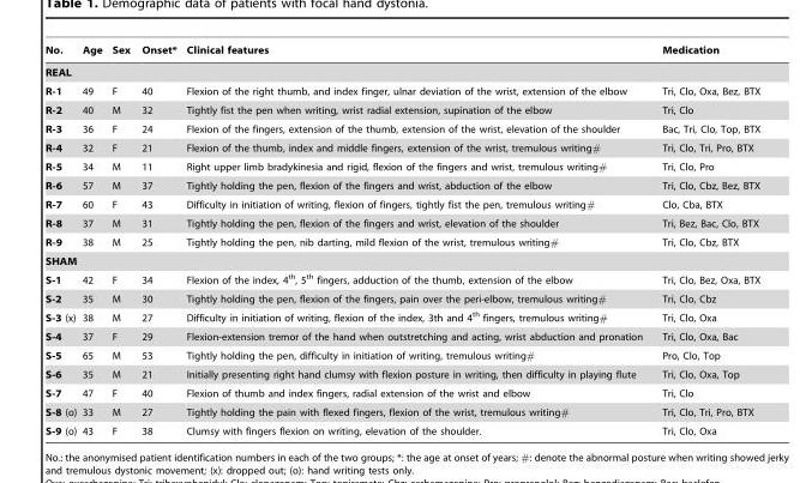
<table><thead><tr><td>No.</td><td>Age</td><td>Sex</td><td>Onset*</td><td>Clinical features</td><td>Medication</td></tr></thead><tbody><tr><td colspan="6">REAL</td></tr><tr><td>R-1</td><td>49</td><td>F</td><td>40</td><td>Flexion of the right thumb, and index finger, ulnar deviation of the wrist, extension of the elbow</td><td>Tri, Clo, Oxa, Bez, BTX</td></tr><tr><td>R-2</td><td>40</td><td>M</td><td>32</td><td>Tightly fist the pen when writing, wrist radial extension, supination of the elbow</td><td>Tri, Clo</td></tr><tr><td>R-3</td><td>36</td><td>F</td><td>24</td><td>Flexion of the fingers, extension of the thumb, extension of the wrist, elevation of the shoulder</td><td>Bac, Tri, Clo, Top, BTX</td></tr><tr><td>R-4</td><td>32</td><td>F</td><td>21</td><td>Flexion of the thumb, index and middle fingers, extension of the wrist, tremulous writing#</td><td>Tri, Clo, Tri, Pro, BTX</td></tr><tr><td>R-5</td><td>34</td><td>M</td><td>11</td><td>Right upper limb bradykinesia and rigid, flexion of the fingers and wrist, tremulous writing#</td><td>Tri, Clo, Pro</td></tr><tr><td>R-6</td><td>57</td><td>M</td><td>37</td><td>Tightly holding the pen, flexion of the fingers and wrist, abduction of the elbow</td><td>Tri, Clo, Cbz, Bez, BTX</td></tr><tr><td>R-7</td><td>60</td><td>F</td><td>43</td><td>Difficulty in initiation of writing, flexion of fingers, tightly fist the pen, tremulous writing#</td><td>Clo, Cba, BTX</td></tr><tr><td>R-8</td><td>37</td><td>M</td><td>31</td><td>Tightly holding the pen, flexion of the fingers and wrist, elevation of the shoulder</td><td>Tri, Bez, Bac, Clo, BTX</td></tr><tr><td>R-9</td><td>38</td><td>M</td><td>25</td><td>Tightly holding the pen, nib darting, mild flexion of the wrist, tremulous writing#</td><td>Tri, Clo, Cbz, BTX</td></tr><tr><td colspan="6">SHAM</td></tr><tr><td>S-1</td><td>42</td><td>F</td><td>34</td><td>Flexion of the index, 4<sup>th</sup>, 5<sup>th</sup> fingers, adduction of the thumb, extension of the elbow</td><td>Tri, Clo, Bez, Oxa, BTX</td></tr><tr><td>S-2</td><td>35</td><td>M</td><td>30</td><td>Tightly holding the pen, flexion of the fingers, pain over the peri-elbow, tremulous writing#</td><td>Tri, Clo, Cbz</td></tr><tr><td>S-3 (x)</td><td>38</td><td>M</td><td>27</td><td>Difficulty in initiation of writing, flexion of the index, 3th and 4<sup>th</sup> fingers, tremulous writing#</td><td>Tri, Clo, Oxa</td></tr><tr><td>S-4</td><td>37</td><td>F</td><td>29</td><td>Flexion-extension tremor of the hand when outstretching and acting, wrist abduction and pronation</td><td>Tri, Clo, Oxa, Bac</td></tr><tr><td>S-5</td><td>65</td><td>M</td><td>53</td><td>Tightly holding the pen, difficulty in initiation of writing, tremulous writing#</td><td>Pro, Clo, Top</td></tr><tr><td>S-6</td><td>35</td><td>M</td><td>21</td><td>Initially presenting right hand clumsy with flexion posture in writing, then difficulty in playing flute</td><td>Tri, Clo, Oxa, Top</td></tr><tr><td>S-7</td><td>47</td><td>F</td><td>40</td><td>Flexion of thumb and index fingers, radial extension of the wrist and elbow</td><td>Tri, Clo</td></tr><tr><td>S-8 (o)</td><td>33</td><td>M</td><td>27</td><td>Tightly holding the pain with flexed fingers, flexion of the wrist, tremulous writing#</td><td>Tri, Clo, Tri, Pro, BTX</td></tr><tr><td>S-9 (o)</td><td>43</td><td>F</td><td>38</td><td>Clumsy with fingers flexion on writing, elevation of the shoulder.</td><td>Tri, Clo, Oxa</td></tr></tbody></table>